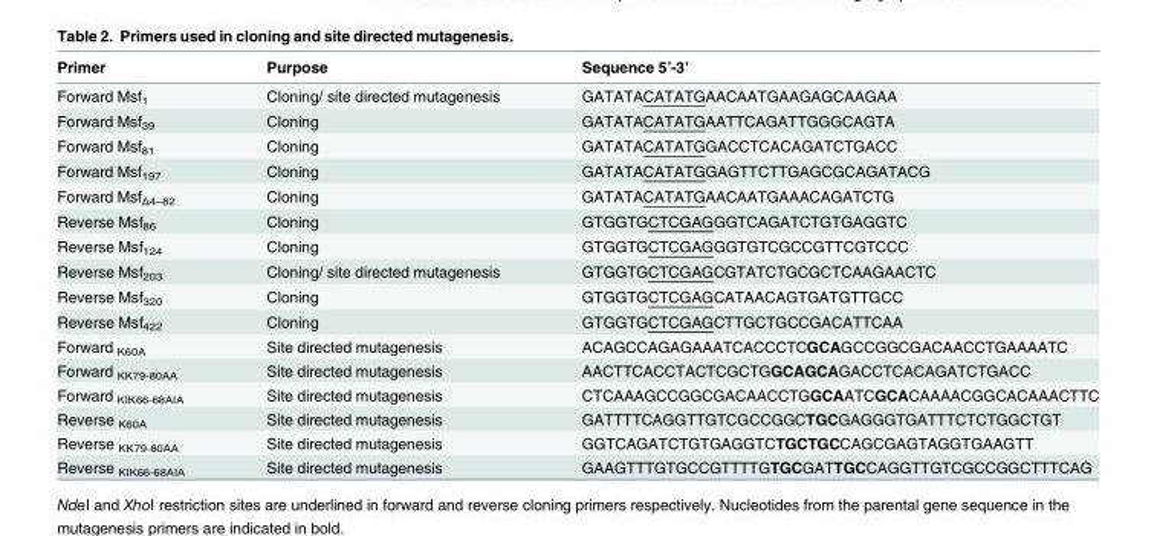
<table><thead><tr><td>Primer</td><td>Purpose</td><td>Sequence 5’-3’</td></tr></thead><tbody><tr><td>Forward Msf<sub>1</sub></td><td>Cloning/ site directed mutagenesis</td><td>GATATACATATGAACAATGAAGAGCAAGAA</td></tr><tr><td>Forward Msf<sub>39</sub></td><td>Cloning</td><td>GATATACATATGAATTCAGATTGGGCAGTA</td></tr><tr><td>Forward Msf<sub>81</sub></td><td>Cloning</td><td>GATATACATATGGACCTCACAGATCTGACC</td></tr><tr><td>Forward Msf<sub>197</sub></td><td>Cloning</td><td>GATATACATATGGAGTTCTTGAGCGCAGATACG</td></tr><tr><td>Forward Msf<sub>Δ4–82</sub></td><td>Cloning</td><td>GATATACATATGAACAATGAAACAGATCTG</td></tr><tr><td>Reverse Msf<sub>86</sub></td><td>Cloning</td><td>GTGGTGCTCGAGGGTCAGATCTGTGAGGTC</td></tr><tr><td>Reverse Msf<sub>124</sub></td><td>Cloning</td><td>GTGGTGCTCGAGGGTGTCGCCGTTCGTCCC</td></tr><tr><td>Reverse Msf<sub>203</sub></td><td>Cloning/ site directed mutagenesis</td><td>GTGGTGCTCGAGCGTATCTGCGCTCAAGAACTC</td></tr><tr><td>Reverse Msf<sub>320</sub></td><td>Cloning</td><td>GTGGTGCTCGAGCATAACAGTGATGTTGCC</td></tr><tr><td>Reverse Msf<sub>422</sub></td><td>Cloning</td><td>GTGGTGCTCGAGCTTGCTGCCGACATTCAA</td></tr><tr><td>Forward <sub>K60A</sub></td><td>Site directed mutagenesis</td><td>ACAGCCAGAGAAATCACCCTCGCAGCCGGCGACAACCTGAAAATC</td></tr><tr><td>Forward <sub>KK79-80AA</sub></td><td>Site directed mutagenesis</td><td>AACTTCACCTACTCGCTGGCAGCAGACCTCACAGATCTGACC</td></tr><tr><td>Forward <sub>KIK66-68AIA</sub></td><td>Site directed mutagenesis</td><td>CTCAAAGCCGGCGACAACCTGGCAATCGCACAAAACGGCACAAACTTC</td></tr><tr><td>Reverse <sub>K60A</sub></td><td>Site directed mutagenesis</td><td>GATTTTCAGGTTGTCGCCGGCTGCGAGGGTGATTTCTCTGGCTGT</td></tr><tr><td>Reverse <sub>KK79-80AA</sub></td><td>Site directed mutagenesis</td><td>GGTCAGATCTGTGAGGTCTGCTGCCAGCGAGTAGGTGAAGTT</td></tr><tr><td>Reverse <sub>KIK66-68AIA</sub></td><td>Site directed mutagenesis</td><td>GAAGTTTGTGCCGTTTTGTGCGATTGCCAGGTTGTCGCCGGCTTTCAG</td></tr></tbody></table>